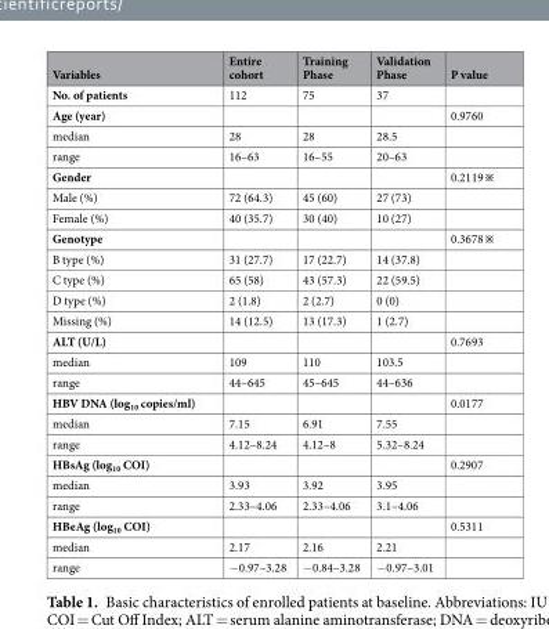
<table><thead><tr><td>Variables</td><td>Entire cohort</td><td>Training Phase</td><td>Validation Phase</td><td>P value</td></tr></thead><tbody><tr><td>No. of patients</td><td>112</td><td>75</td><td>37</td><td></td></tr><tr><td>Age (year)</td><td></td><td></td><td></td><td>0.9760</td></tr><tr><td>median</td><td>28</td><td>28</td><td>28.5</td><td></td></tr><tr><td>range</td><td>16–63</td><td>16–55</td><td>20–63</td><td></td></tr><tr><td>Gender</td><td></td><td></td><td></td><td>0.2119※</td></tr><tr><td>Male (%)</td><td>72 (64.3)</td><td>45 (60)</td><td>27 (73)</td><td></td></tr><tr><td>Female (%)</td><td>40 (35.7)</td><td>30 (40)</td><td>10 (27)</td><td></td></tr><tr><td>Genotype</td><td></td><td></td><td></td><td>0.3678※</td></tr><tr><td>B type (%)</td><td>31 (27.7)</td><td>17 (22.7)</td><td>14 (37.8)</td><td></td></tr><tr><td>C type (%)</td><td>65 (58)</td><td>43 (57.3)</td><td>22 (59.5)</td><td></td></tr><tr><td>D type (%)</td><td>2 (1.8)</td><td>2 (2.7)</td><td>0 (0)</td><td></td></tr><tr><td>Missing (%)</td><td>14 (12.5)</td><td>13 (17.3)</td><td>1 (2.7)</td><td></td></tr><tr><td>ALT (U/L)</td><td></td><td></td><td></td><td>0.7693</td></tr><tr><td>median</td><td>109</td><td>110</td><td>103.5</td><td></td></tr><tr><td>range</td><td>44–645</td><td>45–645</td><td>44–636</td><td></td></tr><tr><td>HBV DNA (log<sub>10</sub> copies/ml)</td><td></td><td></td><td></td><td>0.0177</td></tr><tr><td>median</td><td>7.15</td><td>6.91</td><td>7.55</td><td></td></tr><tr><td>range</td><td>4.12–8.24</td><td>4.12–8</td><td>5.32–8.24</td><td></td></tr><tr><td>HBsAg (log<sub>10</sub> COI)</td><td></td><td></td><td></td><td>0.2907</td></tr><tr><td>median</td><td>3.93</td><td>3.92</td><td>3.95</td><td></td></tr><tr><td>range</td><td>2.33–4.06</td><td>2.33–4.06</td><td>3.1–4.06</td><td></td></tr><tr><td>HBeAg (log<sub>10</sub> COI)</td><td></td><td></td><td></td><td>0.5311</td></tr><tr><td>median</td><td>2.17</td><td>2.16</td><td>2.21</td><td></td></tr><tr><td>range</td><td>−0.97–3.28</td><td>−0.84–3.28</td><td>−0.97–3.01</td><td></td></tr></tbody></table>